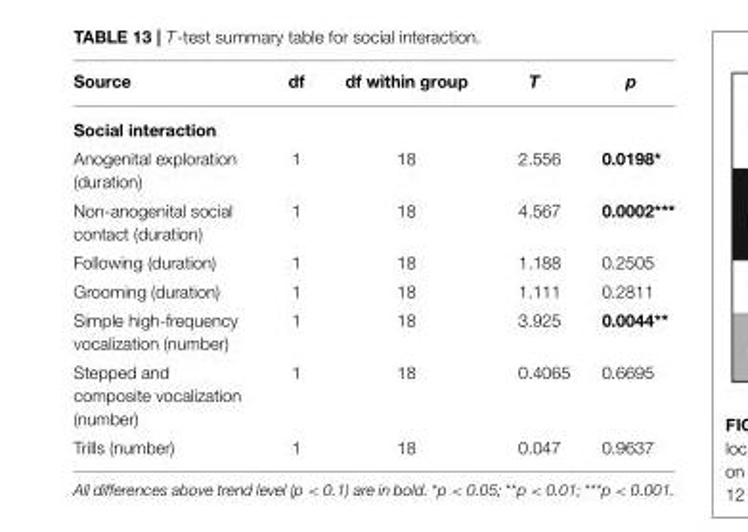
<table><thead><tr><td>Source</td><td>df</td><td>df within group</td><td>T</td><td>p</td></tr></thead><tbody><tr><td colspan="5">Social interaction</td></tr><tr><td>Anogenital exploration (duration)</td><td>1</td><td>18</td><td>2.556</td><td>0.0198*</td></tr><tr><td>Non-anogenital social contact (duration)</td><td>1</td><td>18</td><td>4.567</td><td>0.0002***</td></tr><tr><td>Following (duration)</td><td>1</td><td>18</td><td>1.188</td><td>0.2505</td></tr><tr><td>Grooming (duration)</td><td>1</td><td>18</td><td>1.111</td><td>0.2811</td></tr><tr><td>Simple high-frequency vocalization (number)</td><td>1</td><td>18</td><td>3.925</td><td>0.0044**</td></tr><tr><td>Stepped and composite vocalization (number)</td><td>1</td><td>18</td><td>0.4065</td><td>0.6695</td></tr><tr><td>Trills (number)</td><td>1</td><td>18</td><td>0.047</td><td>0.9637</td></tr></tbody></table>